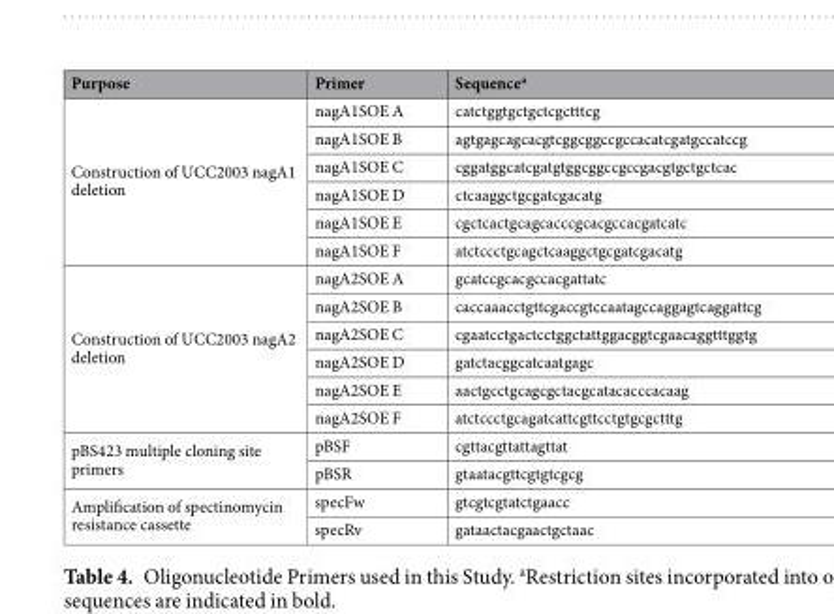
<table><thead><tr><td>Purpose</td><td>Primer</td><td>Sequence<sup>a</sup></td></tr></thead><tbody><tr><td rowspan="6">Construction of UCC2003 nagA1 deletion</td><td>nagA1SOE A</td><td>catctggtgctgctcgctttcg</td></tr><tr><td>nagA1SOE B</td><td>agtgagcagcacgtcggcggccgccacatcgatgccatccg</td></tr><tr><td>nagA1SOE C</td><td>cggatggcatcgatgtggcggccgccgacgtgctgctcac</td></tr><tr><td>nagA1SOE D</td><td>ctcaaggctgcgatcgacatg</td></tr><tr><td>nagA1SOE E</td><td>cgctcactgcagcacccgcacgccacgatcatc</td></tr><tr><td>nagA1SOE F</td><td>atctccctgcagctcaaggctgcgatcgacatg</td></tr><tr><td rowspan="6">Construction of UCC2003 nagA2 deletion</td><td>nagA2SOE A</td><td>gcatccgcacgccacgattatc</td></tr><tr><td>nagA2SOE B</td><td>caccaaacctgttcgaccgtccaatagccaggagtcaggattcg</td></tr><tr><td>nagA2SOE C</td><td>cgaatcctgactcctggctattggacggtcgaacaggtttggtg</td></tr><tr><td>nagA2SOE D</td><td>gatctacggcatcaatgagc</td></tr><tr><td>nagA2SOE E</td><td>aactgcctgcagcgctacgcatacacccacaag</td></tr><tr><td>nagA2SOE F</td><td>atctccctgcagatcattcgttcctgtgcgctttg</td></tr><tr><td rowspan="2">pBS423 multiple cloning site primers</td><td>pBSF</td><td>cgttacgttattagttat</td></tr><tr><td>pBSR</td><td>gtaatacgttcgtgtcgcg</td></tr><tr><td rowspan="2">Amplification of spectinomycin resistance cassette</td><td>specFw</td><td>gtcgtcgtatctgaacc</td></tr><tr><td>specRv</td><td>gataactacgaactgctaac</td></tr></tbody></table>